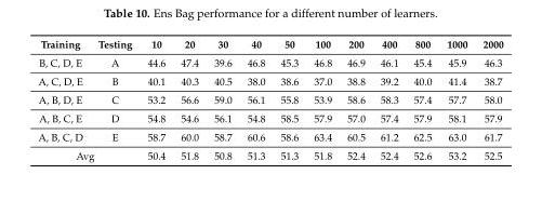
<table><thead><tr><td>Training</td><td>Testing</td><td>10</td><td>20</td><td>30</td><td>40</td><td>50</td><td>100</td><td>200</td><td>400</td><td>800</td><td>1000</td><td>2000</td></tr></thead><tbody><tr><td>B, C, D, E</td><td>A</td><td>44.6</td><td>47.4</td><td>39.6</td><td>46.8</td><td>45.3</td><td>46.8</td><td>46.9</td><td>46.1</td><td>45.4</td><td>45.9</td><td>46.3</td></tr><tr><td>A, C, D, E</td><td>B</td><td>40.1</td><td>40.3</td><td>40.5</td><td>38.0</td><td>38.6</td><td>37.0</td><td>38.8</td><td>39.2</td><td>40.0</td><td>41.4</td><td>38.7</td></tr><tr><td>A, B, D, E</td><td>C</td><td>53.2</td><td>56.6</td><td>59.0</td><td>56.1</td><td>55.8</td><td>53.9</td><td>58.6</td><td>58.3</td><td>57.4</td><td>57.7</td><td>58.0</td></tr><tr><td>A, B, C, E</td><td>D</td><td>54.8</td><td>54.6</td><td>56.1</td><td>54.8</td><td>58.5</td><td>57.9</td><td>57.0</td><td>57.4</td><td>57.9</td><td>58.1</td><td>57.9</td></tr><tr><td>A, B, C, D</td><td>E</td><td>58.7</td><td>60.0</td><td>58.7</td><td>60.6</td><td>58.6</td><td>63.4</td><td>60.5</td><td>61.2</td><td>62.5</td><td>63.0</td><td>61.7</td></tr><tr><td colspan="2">Avg</td><td>50.4</td><td>51.8</td><td>50.8</td><td>51.3</td><td>51.3</td><td>51.8</td><td>52.4</td><td>52.4</td><td>52.6</td><td>53.2</td><td>52.5</td></tr></tbody></table>